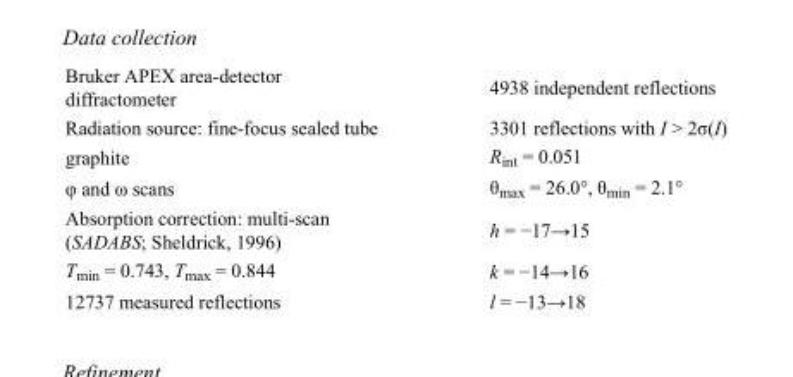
<table><tbody><tr><td>Bruker APEX area-detector diffractometer</td><td>4938 independent reflections</td></tr><tr><td>Radiation source: fine-focus sealed tube</td><td>3301 reflections with I &gt; 2σ(I)</td></tr><tr><td>graphite</td><td>R<sub>int</sub> = 0.051</td></tr><tr><td>φ and ω scans</td><td>θ<sub>max</sub> = 26.0°, θ<sub>min</sub> = 2.1°</td></tr><tr><td>Absorption correction: multi-scan (SADABS; Sheldrick, 1996)</td><td>h = −17→15</td></tr><tr><td>T<sub>min</sub> = 0.743, T<sub>max</sub> = 0.844</td><td>k = −14→16</td></tr><tr><td>12737 measured reflections</td><td>l = −13→18</td></tr></tbody></table>